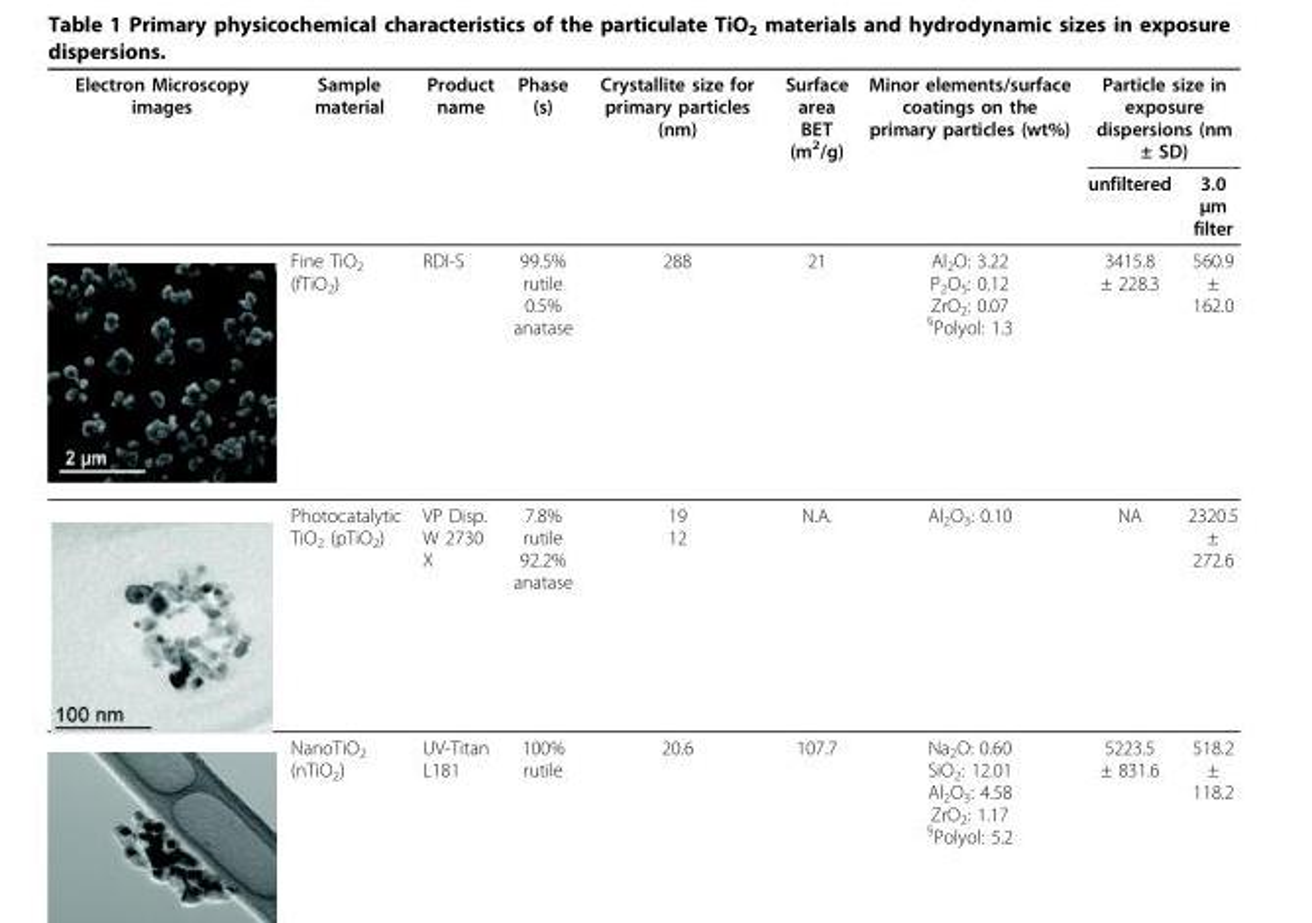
<table><thead><tr><td rowspan="2">Electron Microscopy images</td><td rowspan="2">Sample material</td><td rowspan="2">Product name</td><td rowspan="2">Phase (s)</td><td rowspan="2">Crystallite size for primary particles (nm)</td><td rowspan="2">Surface area BET (m<sup>2</sup>/g)</td><td rowspan="2">Minor elements/surface coatings on the primary particles (wt%)</td><td colspan="2">Particle size in exposure dispersions (nm ± SD)</td></tr><tr><td>unfiltered</td><td>3.0 μm filter</td></tr></thead><tbody><tr><td></td><td>Fine TiO<sub>2</sub> (fTiO<sub>2</sub>)</td><td>RDI-S</td><td>99.5% rutile 0.5% anatase</td><td>288</td><td>21</td><td>Al<sub>2</sub>O: 3.22 P<sub>2</sub>O<sub>5</sub>: 0.12 ZrO<sub>2</sub>: 0.07 <sup>§</sup>Polyol: 1.3</td><td>3415.8 ± 228.3</td><td>560.9 ± 162.0</td></tr><tr><td></td><td>Photocatalytic TiO<sub>2</sub> (pTiO<sub>2</sub>)</td><td>VP Disp. W 2730 X</td><td>7.8% rutile 92.2% anatase</td><td>19 12</td><td>N.A.</td><td>Al<sub>2</sub>O<sub>3</sub>: 0.10</td><td>NA</td><td>2320.5 ± 272.6</td></tr><tr><td></td><td>NanoTiO<sub>2</sub> (nTiO<sub>2</sub>)</td><td>UV-Titan L181</td><td>100% rutile</td><td>20.6</td><td>107.7</td><td>Na<sub>2</sub>O: 0.60 SiO<sub>2</sub>: 12.01 Al<sub>2</sub>O<sub>3</sub>: 4.58 ZrO<sub>2</sub>: 1.17 <sup>§</sup>Polyol: 5.2</td><td>5223.5 ± 831.6</td><td>518.2 ± 118.2</td></tr></tbody></table>